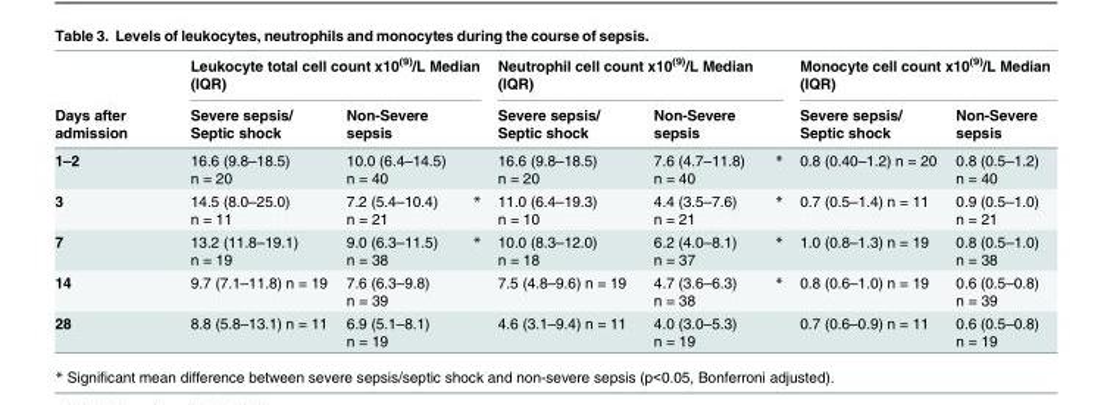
<table><thead><tr><td rowspan="2">Days after admission</td><td colspan="3">Leukocyte total cell count x10<sup>(9)</sup>/L Median (IQR)</td><td colspan="3">Neutrophil cell count x10<sup>(9)</sup>/L Median (IQR)</td><td colspan="2">Monocyte cell count x10<sup>(9)</sup>/L Median (IQR)</td></tr><tr><td>Severe sepsis/ Septic shock</td><td>Non-Severe sepsis</td><td></td><td>Severe sepsis/ Septic shock</td><td>Non-Severe sepsis</td><td></td><td>Severe sepsis/ Septic shock</td><td>Non-Severe sepsis</td></tr></thead><tbody><tr><td>1–2</td><td>16.6 (9.8–18.5) n = 20</td><td>10.0 (6.4–14.5) n = 40</td><td></td><td>16.6 (9.8–18.5) n = 20</td><td>7.6 (4.7–11.8) n = 40</td><td>*</td><td>0.8 (0.40–1.2) n = 20</td><td>0.8 (0.5–1.2) n = 40</td></tr><tr><td>3</td><td>14.5 (8.0–25.0) n = 11</td><td>7.2 (5.4–10.4) n = 21</td><td>*</td><td>11.0 (6.4–19.3) n = 10</td><td>4.4 (3.5–7.6) n = 21</td><td>*</td><td>0.7 (0.5–1.4) n = 11</td><td>0.9 (0.5–1.0) n = 21</td></tr><tr><td>7</td><td>13.2 (11.8–19.1) n = 19</td><td>9.0 (6.3–11.5) n = 38</td><td>*</td><td>10.0 (8.3–12.0) n = 18</td><td>6.2 (4.0–8.1) n = 37</td><td>*</td><td>1.0 (0.8–1.3) n = 19</td><td>0.8 (0.5–1.0) n = 38</td></tr><tr><td>14</td><td>9.7 (7.1–11.8) n = 19</td><td>7.6 (6.3–9.8) n = 39</td><td></td><td>7.5 (4.8–9.6) n = 19</td><td>4.7 (3.6–6.3) n = 38</td><td>*</td><td>0.8 (0.6–1.0) n = 19</td><td>0.6 (0.5–0.8) n = 39</td></tr><tr><td>28</td><td>8.8 (5.8–13.1) n = 11</td><td>6.9 (5.1–8.1) n = 19</td><td></td><td>4.6 (3.1–9.4) n = 11</td><td>4.0 (3.0–5.3) n = 19</td><td></td><td>0.7 (0.6–0.9) n = 11</td><td>0.6 (0.5–0.8) n = 19</td></tr></tbody></table>